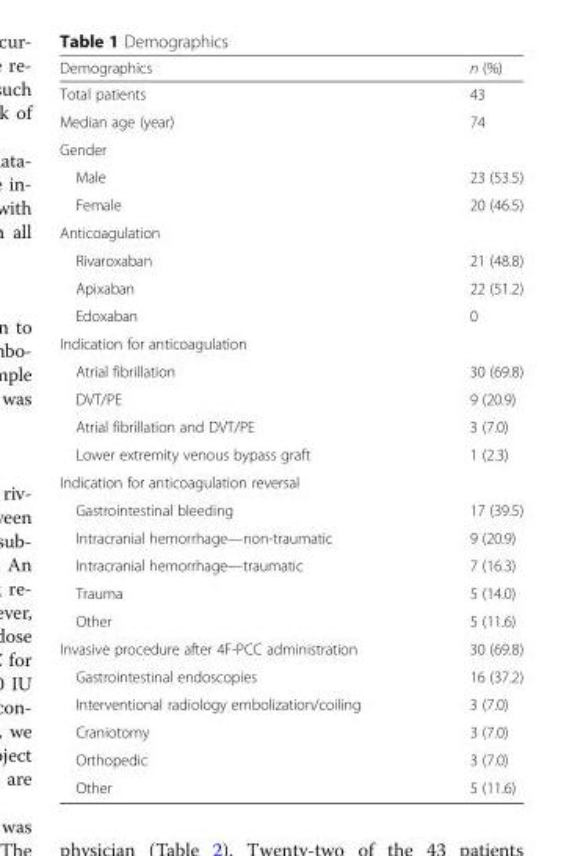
<table><thead><tr><td>Demographics</td><td>n (%)</td></tr></thead><tbody><tr><td>Total patients</td><td>43</td></tr><tr><td>Median age (year)</td><td>74</td></tr><tr><td colspan="2">Gender</td></tr><tr><td>Male</td><td>23 (53.5)</td></tr><tr><td>Female</td><td>20 (46.5)</td></tr><tr><td colspan="2">Anticoagulation</td></tr><tr><td>Rivaroxaban</td><td>21 (48.8)</td></tr><tr><td>Apixaban</td><td>22 (51.2)</td></tr><tr><td>Edoxaban</td><td>0</td></tr><tr><td colspan="2">Indication for anticoagulation</td></tr><tr><td>Atrial fibrillation</td><td>30 (69.8)</td></tr><tr><td>DVT/PE</td><td>9 (20.9)</td></tr><tr><td>Atrial fibrillation and DVT/PE</td><td>3 (7.0)</td></tr><tr><td>Lower extremity venous bypass graft</td><td>1 (2.3)</td></tr><tr><td colspan="2">Indication for anticoagulation reversal</td></tr><tr><td>Gastrointestinal bleeding</td><td>17 (39.5)</td></tr><tr><td>Intracranial hemorrhage—non-traumatic</td><td>9 (20.9)</td></tr><tr><td>Intracranial hemorrhage—traumatic</td><td>7 (16.3)</td></tr><tr><td>Trauma</td><td>5 (14.0)</td></tr><tr><td>Other</td><td>5 (11.6)</td></tr><tr><td>Invasive procedure after 4F-PCC administration</td><td>30 (69.8)</td></tr><tr><td>Gastrointestinal endoscopies</td><td>16 (37.2)</td></tr><tr><td>Interventional radiology embolization/coiling</td><td>3 (7.0)</td></tr><tr><td>Craniotomy</td><td>3 (7.0)</td></tr><tr><td>Orthopedic</td><td>3 (7.0)</td></tr><tr><td>Other</td><td>5 (11.6)</td></tr></tbody></table>